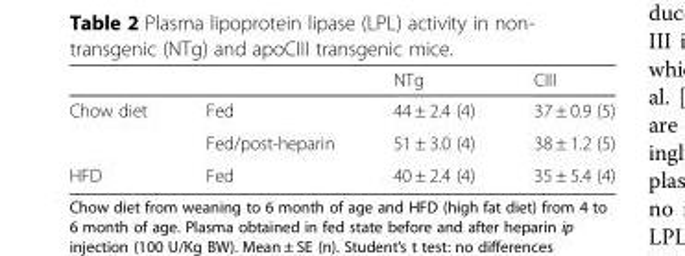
<table><thead><tr><td></td><td></td><td>NTg</td><td>CIII</td></tr></thead><tbody><tr><td rowspan="2">Chow diet</td><td>Fed</td><td>44 ± 2.4 (4)</td><td>37 ± 0.9 (5)</td></tr><tr><td>Fed/post-heparin</td><td>51 ± 3.0 (4)</td><td>38 ± 1.2 (5)</td></tr><tr><td>HFD</td><td>Fed</td><td>40 ± 2.4 (4)</td><td>35 ± 5.4 (4)</td></tr></tbody></table>